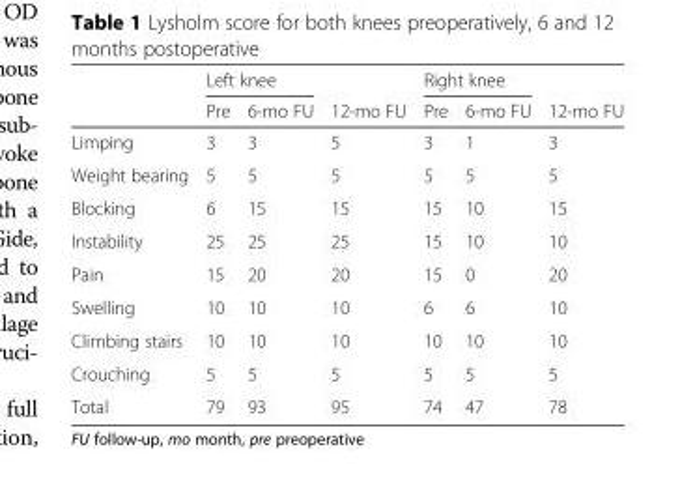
<table><thead><tr><td rowspan="2"></td><td colspan="2">Left knee</td><td rowspan="2">12-mo FU</td><td colspan="2">Right knee</td><td rowspan="2">12-mo FU</td></tr><tr><td>Pre</td><td>6-mo FU</td><td>Pre</td><td>6-mo FU</td></tr></thead><tbody><tr><td>Limping</td><td>3</td><td>3</td><td>5</td><td>3</td><td>1</td><td>3</td></tr><tr><td>Weight bearing</td><td>5</td><td>5</td><td>5</td><td>5</td><td>5</td><td>5</td></tr><tr><td>Blocking</td><td>6</td><td>15</td><td>15</td><td>15</td><td>10</td><td>15</td></tr><tr><td>Instability</td><td>25</td><td>25</td><td>25</td><td>15</td><td>10</td><td>10</td></tr><tr><td>Pain</td><td>15</td><td>20</td><td>20</td><td>15</td><td>0</td><td>20</td></tr><tr><td>Swelling</td><td>10</td><td>10</td><td>10</td><td>6</td><td>6</td><td>10</td></tr><tr><td>Climbing stairs</td><td>10</td><td>10</td><td>10</td><td>10</td><td>10</td><td>10</td></tr><tr><td>Crouching</td><td>5</td><td>5</td><td>5</td><td>5</td><td>5</td><td>5</td></tr><tr><td>Total</td><td>79</td><td>93</td><td>95</td><td>74</td><td>47</td><td>78</td></tr></tbody></table>